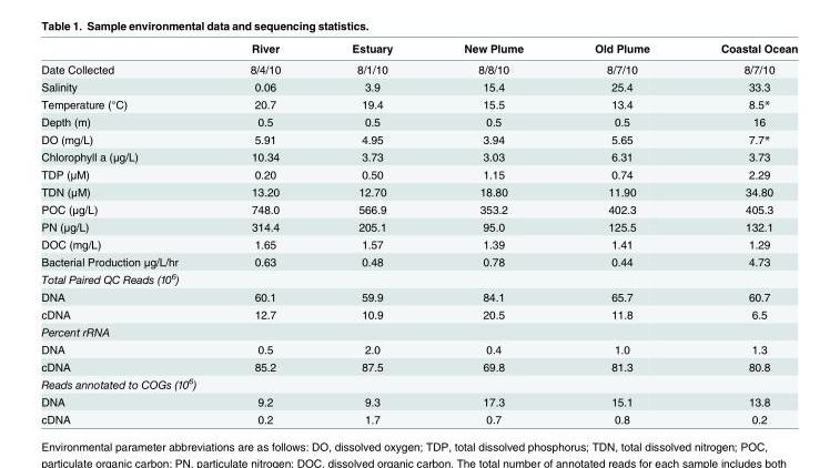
<table><thead><tr><td></td><td>River</td><td>Estuary</td><td>New Plume</td><td>Old Plume</td><td>Coastal Ocean</td></tr></thead><tbody><tr><td>Date Collected</td><td>8/4/10</td><td>8/1/10</td><td>8/8/10</td><td>8/7/10</td><td>8/7/10</td></tr><tr><td>Salinity</td><td>0.06</td><td>3.9</td><td>15.4</td><td>25.4</td><td>33.3</td></tr><tr><td>Temperature (°C)</td><td>20.7</td><td>19.4</td><td>15.5</td><td>13.4</td><td>8.5*</td></tr><tr><td>Depth (m)</td><td>0.5</td><td>0.5</td><td>0.5</td><td>0.5</td><td>16</td></tr><tr><td>DO (mg/L)</td><td>5.91</td><td>4.95</td><td>3.94</td><td>5.65</td><td>7.7*</td></tr><tr><td>Chlorophyll a (μg/L)</td><td>10.34</td><td>3.73</td><td>3.03</td><td>6.31</td><td>3.73</td></tr><tr><td>TDP (μM)</td><td>0.20</td><td>0.50</td><td>1.15</td><td>0.74</td><td>2.29</td></tr><tr><td>TDN (μM)</td><td>13.20</td><td>12.70</td><td>18.80</td><td>11.90</td><td>34.80</td></tr><tr><td>POC (μg/L)</td><td>748.0</td><td>566.9</td><td>353.2</td><td>402.3</td><td>405.3</td></tr><tr><td>PN (μg/L)</td><td>314.4</td><td>205.1</td><td>95.0</td><td>125.5</td><td>132.1</td></tr><tr><td>DOC (mg/L)</td><td>1.65</td><td>1.57</td><td>1.39</td><td>1.41</td><td>1.29</td></tr><tr><td>Bacterial Production μg/L/hr</td><td>0.63</td><td>0.48</td><td>0.78</td><td>0.44</td><td>4.73</td></tr><tr><td colspan="6">Total Paired QC Reads (10<sup>6</sup>)</td></tr><tr><td>DNA</td><td>60.1</td><td>59.9</td><td>84.1</td><td>65.7</td><td>60.7</td></tr><tr><td>cDNA</td><td>12.7</td><td>10.9</td><td>20.5</td><td>11.8</td><td>6.5</td></tr><tr><td colspan="6">Percent rRNA</td></tr><tr><td>DNA</td><td>0.5</td><td>2.0</td><td>0.4</td><td>1.0</td><td>1.3</td></tr><tr><td>cDNA</td><td>85.2</td><td>87.5</td><td>69.8</td><td>81.3</td><td>80.8</td></tr><tr><td colspan="6">Reads annotated to COGs (10<sup>6</sup>)</td></tr><tr><td>DNA</td><td>9.2</td><td>9.3</td><td>17.3</td><td>15.1</td><td>13.8</td></tr><tr><td>cDNA</td><td>0.2</td><td>1.7</td><td>0.7</td><td>0.8</td><td>0.2</td></tr></tbody></table>